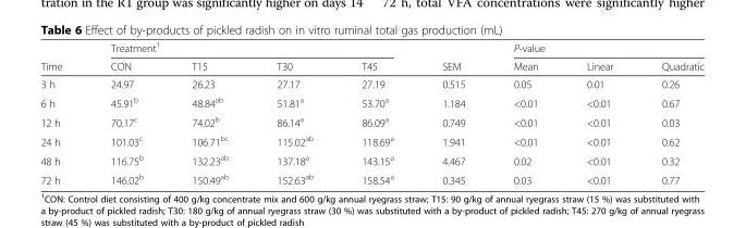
<table><thead><tr><td rowspan="2">Time</td><td colspan="4">Treatment<sup>1</sup></td><td rowspan="2">SEM</td><td colspan="3">P-value</td></tr><tr><td>CON</td><td>T15</td><td>T30</td><td>T45</td><td>Mean</td><td>Linear</td><td>Quadratic</td></tr></thead><tbody><tr><td>3 h</td><td>24.97</td><td>26.23</td><td>27.17</td><td>27.19</td><td>0.515</td><td>0.05</td><td>0.01</td><td>0.26</td></tr><tr><td>6 h</td><td>45.91<sup>b</sup></td><td>48.84<sup>ab</sup></td><td>51.81<sup>a</sup></td><td>53.70<sup>a</sup></td><td>1.184</td><td>&lt;0.01</td><td>&lt;0.01</td><td>0.67</td></tr><tr><td>12 h</td><td>70.17<sup>c</sup></td><td>74.02<sup>b</sup></td><td>86.14<sup>a</sup></td><td>86.09<sup>a</sup></td><td>0.749</td><td>&lt;0.01</td><td>&lt;0.01</td><td>0.03</td></tr><tr><td>24 h</td><td>101.03<sup>c</sup></td><td>106.71<sup>bc</sup></td><td>115.02<sup>ab</sup></td><td>118.69<sup>a</sup></td><td>1.941</td><td>&lt;0.01</td><td>&lt;0.01</td><td>0.62</td></tr><tr><td>48 h</td><td>116.75<sup>b</sup></td><td>132.23<sup>ab</sup></td><td>137.18<sup>a</sup></td><td>143.15<sup>a</sup></td><td>4.467</td><td>0.02</td><td>&lt;0.01</td><td>0.32</td></tr><tr><td>72 h</td><td>146.02<sup>b</sup></td><td>150.49<sup>ab</sup></td><td>152.63<sup>ab</sup></td><td>158.54<sup>a</sup></td><td>0.345</td><td>0.03</td><td>&lt;0.01</td><td>0.77</td></tr></tbody></table>